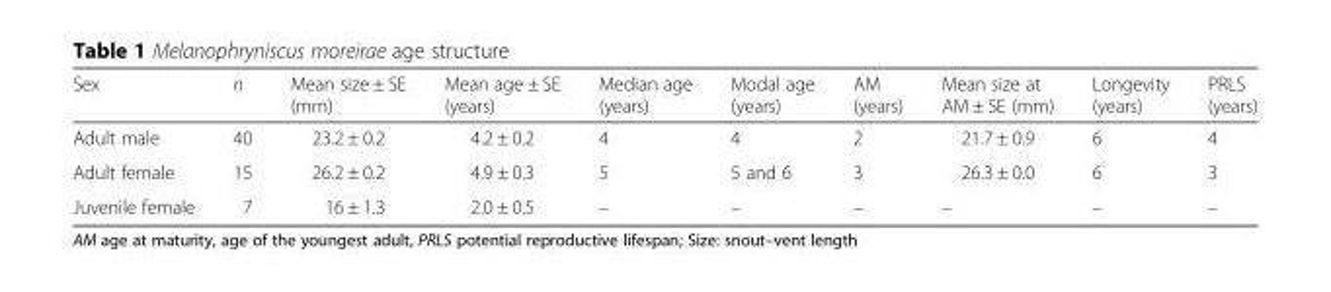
<table><thead><tr><td>Sex</td><td>n</td><td>Mean size ± SE (mm)</td><td>Mean age ± SE (years)</td><td>Median age (years)</td><td>Modal age (years)</td><td>AM (years)</td><td>Mean size at AM ± SE (mm)</td><td>Longevity (years)</td><td>PRLS (years)</td></tr></thead><tbody><tr><td>Adult male</td><td>40</td><td>23.2 ± 0.2</td><td>4.2 ± 0.2</td><td>4</td><td>4</td><td>2</td><td>21.7 ± 0.9</td><td>6</td><td>4</td></tr><tr><td>Adult female</td><td>15</td><td>26.2 ± 0.2</td><td>4.9 ± 0.3</td><td>5</td><td>5 and 6</td><td>3</td><td>26.3 ± 0.0</td><td>6</td><td>3</td></tr><tr><td>Juvenile female</td><td>7</td><td>16 ± 1.3</td><td>2.0 ± 0.5</td><td>–</td><td>–</td><td>–</td><td>–</td><td>–</td><td>–</td></tr></tbody></table>